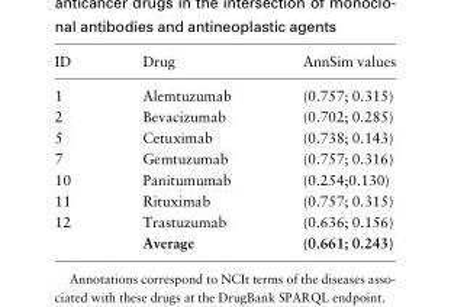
<table><thead><tr><td>ID</td><td>Drug</td><td>AnnSim values</td></tr></thead><tbody><tr><td>1</td><td>Alemtuzumab</td><td>(0.757; 0.315)</td></tr><tr><td>2</td><td>Bevacizumab</td><td>(0.702; 0.285)</td></tr><tr><td>5</td><td>Cetuximab</td><td>(0.738; 0.143)</td></tr><tr><td>7</td><td>Gemtuzumab</td><td>(0.757; 0.316)</td></tr><tr><td>10</td><td>Panitumumab</td><td>(0.254;0.130)</td></tr><tr><td>11</td><td>Rituximab</td><td>(0.757; 0.315)</td></tr><tr><td>12</td><td>Trastuzumab</td><td>(0.636; 0.156)</td></tr><tr><td colspan="2">Average</td><td>(0.661; 0.243)</td></tr></tbody></table>